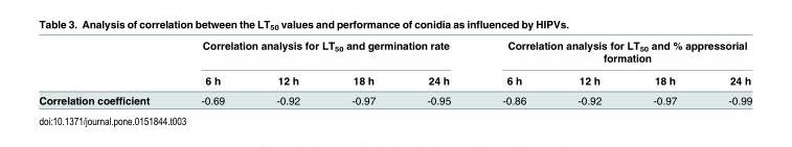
<table><thead><tr><td rowspan="2"></td><td colspan="4">Correlation analysis for LT<sub>50</sub> and germination rate</td><td colspan="4">Correlation analysis for LT<sub>50</sub> and % appressorial formation</td></tr><tr><td>6 h</td><td>12 h</td><td>18 h</td><td>24 h</td><td>6 h</td><td>12 h</td><td>18 h</td><td>24 h</td></tr></thead><tbody><tr><td>Correlation coefficient</td><td>-0.69</td><td>-0.92</td><td>-0.97</td><td>-0.95</td><td>-0.86</td><td>-0.92</td><td>-0.97</td><td>-0.99</td></tr></tbody></table>